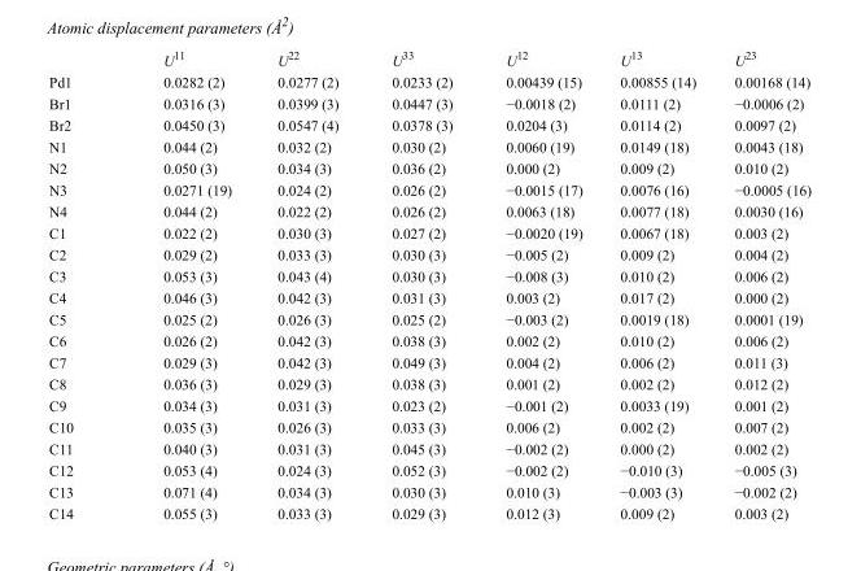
<table><thead><tr><td></td><td>U<sup>11</sup></td><td>U<sup>22</sup></td><td>U<sup>33</sup></td><td>U<sup>12</sup></td><td>U<sup>13</sup></td><td>U<sup>23</sup></td></tr></thead><tbody><tr><td>Pd1</td><td>0.0282 (2)</td><td>0.0277 (2)</td><td>0.0233 (2)</td><td>0.00439 (15)</td><td>0.00855 (14)</td><td>0.00168 (14)</td></tr><tr><td>Br1</td><td>0.0316 (3)</td><td>0.0399 (3)</td><td>0.0447 (3)</td><td>−0.0018 (2)</td><td>0.0111 (2)</td><td>−0.0006 (2)</td></tr><tr><td>Br2</td><td>0.0450 (3)</td><td>0.0547 (4)</td><td>0.0378 (3)</td><td>0.0204 (3)</td><td>0.0114 (2)</td><td>0.0097 (2)</td></tr><tr><td>N1</td><td>0.044 (2)</td><td>0.032 (2)</td><td>0.030 (2)</td><td>0.0060 (19)</td><td>0.0149 (18)</td><td>0.0043 (18)</td></tr><tr><td>N2</td><td>0.050 (3)</td><td>0.034 (3)</td><td>0.036 (2)</td><td>0.000 (2)</td><td>0.009 (2)</td><td>0.010 (2)</td></tr><tr><td>N3</td><td>0.0271 (19)</td><td>0.024 (2)</td><td>0.026 (2)</td><td>−0.0015 (17)</td><td>0.0076 (16)</td><td>−0.0005 (16)</td></tr><tr><td>N4</td><td>0.044 (2)</td><td>0.022 (2)</td><td>0.026 (2)</td><td>0.0063 (18)</td><td>0.0077 (18)</td><td>0.0030 (16)</td></tr><tr><td>C1</td><td>0.022 (2)</td><td>0.030 (3)</td><td>0.027 (2)</td><td>−0.0020 (19)</td><td>0.0067 (18)</td><td>0.003 (2)</td></tr><tr><td>C2</td><td>0.029 (2)</td><td>0.033 (3)</td><td>0.030 (3)</td><td>−0.005 (2)</td><td>0.009 (2)</td><td>0.004 (2)</td></tr><tr><td>C3</td><td>0.053 (3)</td><td>0.043 (4)</td><td>0.030 (3)</td><td>−0.008 (3)</td><td>0.010 (2)</td><td>0.006 (2)</td></tr><tr><td>C4</td><td>0.046 (3)</td><td>0.042 (3)</td><td>0.031 (3)</td><td>0.003 (2)</td><td>0.017 (2)</td><td>0.000 (2)</td></tr><tr><td>C5</td><td>0.025 (2)</td><td>0.026 (3)</td><td>0.025 (2)</td><td>−0.003 (2)</td><td>0.0019 (18)</td><td>0.0001 (19)</td></tr><tr><td>C6</td><td>0.026 (2)</td><td>0.042 (3)</td><td>0.038 (3)</td><td>0.002 (2)</td><td>0.010 (2)</td><td>0.006 (2)</td></tr><tr><td>C7</td><td>0.029 (3)</td><td>0.042 (3)</td><td>0.049 (3)</td><td>0.004 (2)</td><td>0.006 (2)</td><td>0.011 (3)</td></tr><tr><td>C8</td><td>0.036 (3)</td><td>0.029 (3)</td><td>0.038 (3)</td><td>0.001 (2)</td><td>0.002 (2)</td><td>0.012 (2)</td></tr><tr><td>C9</td><td>0.034 (3)</td><td>0.031 (3)</td><td>0.023 (2)</td><td>−0.001 (2)</td><td>0.0033 (19)</td><td>0.001 (2)</td></tr><tr><td>C10</td><td>0.035 (3)</td><td>0.026 (3)</td><td>0.033 (3)</td><td>0.006 (2)</td><td>0.002 (2)</td><td>0.007 (2)</td></tr><tr><td>C11</td><td>0.040 (3)</td><td>0.031 (3)</td><td>0.045 (3)</td><td>−0.002 (2)</td><td>0.000 (2)</td><td>0.002 (2)</td></tr><tr><td>C12</td><td>0.053 (4)</td><td>0.024 (3)</td><td>0.052 (3)</td><td>−0.002 (2)</td><td>−0.010 (3)</td><td>−0.005 (3)</td></tr><tr><td>C13</td><td>0.071 (4)</td><td>0.034 (3)</td><td>0.030 (3)</td><td>0.010 (3)</td><td>−0.003 (3)</td><td>−0.002 (2)</td></tr><tr><td>C14</td><td>0.055 (3)</td><td>0.033 (3)</td><td>0.029 (3)</td><td>0.012 (3)</td><td>0.009 (2)</td><td>0.003 (2)</td></tr></tbody></table>